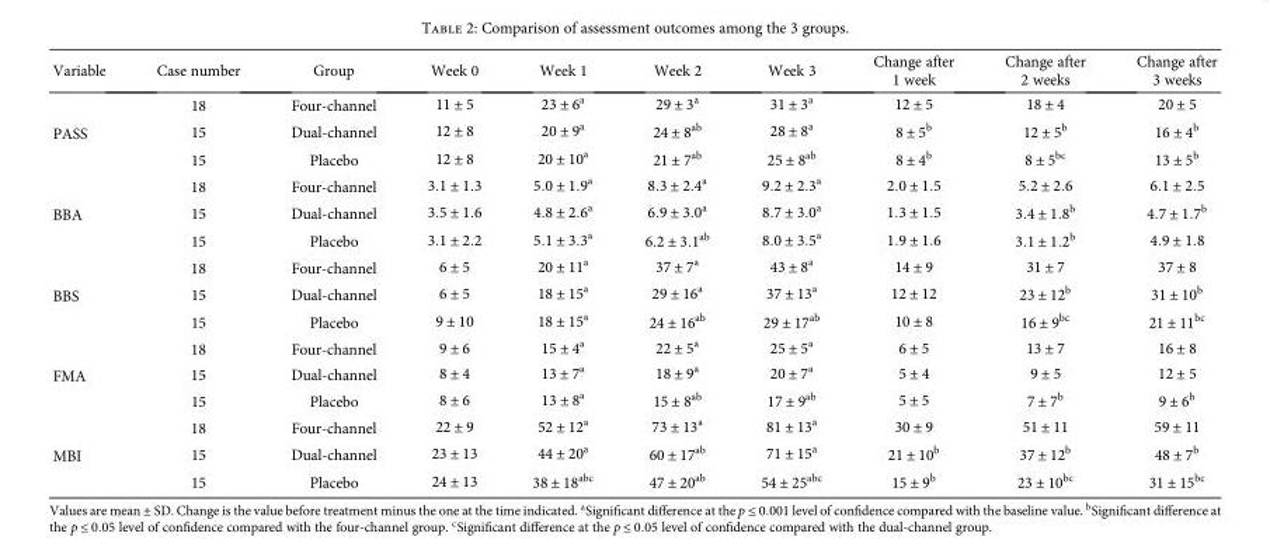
<table><thead><tr><td>Variable</td><td>Case number</td><td>Group</td><td>Week 0</td><td>Week 1</td><td>Week 2</td><td>Week 3</td><td>Change after 1 week</td><td>Change after 2 weeks</td><td>Change after 3 weeks</td></tr></thead><tbody><tr><td rowspan="3">PASS</td><td>18</td><td>Four-channel</td><td>11 ± 5</td><td>23 ± 6<sup>a</sup></td><td>29 ± 3<sup>a</sup></td><td>31 ± 3<sup>a</sup></td><td>12 ± 5</td><td>18 ± 4</td><td>20 ± 5</td></tr><tr><td>15</td><td>Dual-channel</td><td>12 ± 8</td><td>20 ± 9<sup>a</sup></td><td>24 ± 8<sup>ab</sup></td><td>28 ± 8<sup>a</sup></td><td>8 ± 5<sup>b</sup></td><td>12 ± 5<sup>b</sup></td><td>16 ± 4<sup>b</sup></td></tr><tr><td>15</td><td>Placebo</td><td>12 ± 8</td><td>20 ± 10<sup>a</sup></td><td>21 ± 7<sup>ab</sup></td><td>25 ± 8<sup>ab</sup></td><td>8 ± 4<sup>b</sup></td><td>8 ± 5<sup>bc</sup></td><td>13 ± 5<sup>b</sup></td></tr><tr><td rowspan="3">BBA</td><td>18</td><td>Four-channel</td><td>3 1 ± 1 3</td><td>5 0 ± 1 9a</td><td>8 3 ± 2 4a</td><td>9 2 ± 2 3a</td><td>2 0 ± 1 5</td><td>5 2 ± 2 6</td><td>6 1 ± 2 5</td></tr><tr><td>15</td><td>Dual-channel</td><td>3 5 ± 1 6</td><td>4 8 ± 2 6a</td><td>6 9 ± 3 0a</td><td>8 7 ± 3 0a</td><td>1 3 ± 1 5</td><td>3 4 ± 1 8b</td><td>4 7 ± 1 7b</td></tr><tr><td>15</td><td>Placebo</td><td>3 1 ± 2 2</td><td>5 1 ± 3 3a</td><td>6 2 ± 3 1ab</td><td>8 0 ± 3 5a</td><td>1 9 ± 1 6</td><td>3 1 ± 1 2b</td><td>4 9 ± 1 8</td></tr><tr><td rowspan="3">BBS</td><td>18</td><td>Four-channel</td><td>6 ± 5</td><td>20 ± 11<sup>a</sup></td><td>37 ± 7<sup>a</sup></td><td>43 ± 8<sup>a</sup></td><td>14 ± 9</td><td>31 ± 7</td><td>37 ± 8</td></tr><tr><td>15</td><td>Dual-channel</td><td>6 ± 5</td><td>18 ± 15<sup>a</sup></td><td>29 ± 16<sup>a</sup></td><td>37 ± 13<sup>a</sup></td><td>12 ± 12</td><td>23 ± 12<sup>b</sup></td><td>31 ± 10<sup>b</sup></td></tr><tr><td>15</td><td>Placebo</td><td>9 ± 10</td><td>18 ± 15<sup>a</sup></td><td>24 ± 16<sup>ab</sup></td><td>29 ± 17<sup>ab</sup></td><td>10 ± 8</td><td>16 ± 9<sup>bc</sup></td><td>21 ± 11<sup>bc</sup></td></tr><tr><td rowspan="3">FMA</td><td>18</td><td>Four-channel</td><td>9 ± 6</td><td>15 ± 4<sup>a</sup></td><td>22 ± 5<sup>a</sup></td><td>25 ± 5<sup>a</sup></td><td>6 ± 5</td><td>13 ± 7</td><td>16 ± 8</td></tr><tr><td>15</td><td>Dual-channel</td><td>8 ± 4</td><td>13 ± 7<sup>a</sup></td><td>18 ± 9<sup>a</sup></td><td>20 ± 7<sup>a</sup></td><td>5 ± 4</td><td>9 ± 5</td><td>12 ± 5</td></tr><tr><td>15</td><td>Placebo</td><td>8 ± 6</td><td>13 ± 8<sup>a</sup></td><td>15 ± 8<sup>ab</sup></td><td>17 ± 9<sup>ab</sup></td><td>5 ± 5</td><td>7 ± 7<sup>b</sup></td><td>9 ± 6<sup>b</sup></td></tr><tr><td rowspan="3">MBI</td><td>18</td><td>Four-channel</td><td>22 ± 9</td><td>52 ± 12<sup>a</sup></td><td>73 ± 13<sup>a</sup></td><td>81 ± 13<sup>a</sup></td><td>30 ± 9</td><td>51 ± 11</td><td>59 ± 11</td></tr><tr><td>15</td><td>Dual-channel</td><td>23 ± 13</td><td>44 ± 20<sup>a</sup></td><td>60 ± 17<sup>ab</sup></td><td>71 ± 15<sup>a</sup></td><td>21 ± 10<sup>b</sup></td><td>37 ± 12<sup>b</sup></td><td>48 ± 7<sup>b</sup></td></tr><tr><td>15</td><td>Placebo</td><td>24 ± 13</td><td>38 ± 18<sup>abc</sup></td><td>47 ± 20<sup>ab</sup></td><td>54 ± 25<sup>abc</sup></td><td>15 ± 9<sup>b</sup></td><td>23 ± 10<sup>bc</sup></td><td>31 ± 15<sup>bc</sup></td></tr></tbody></table>